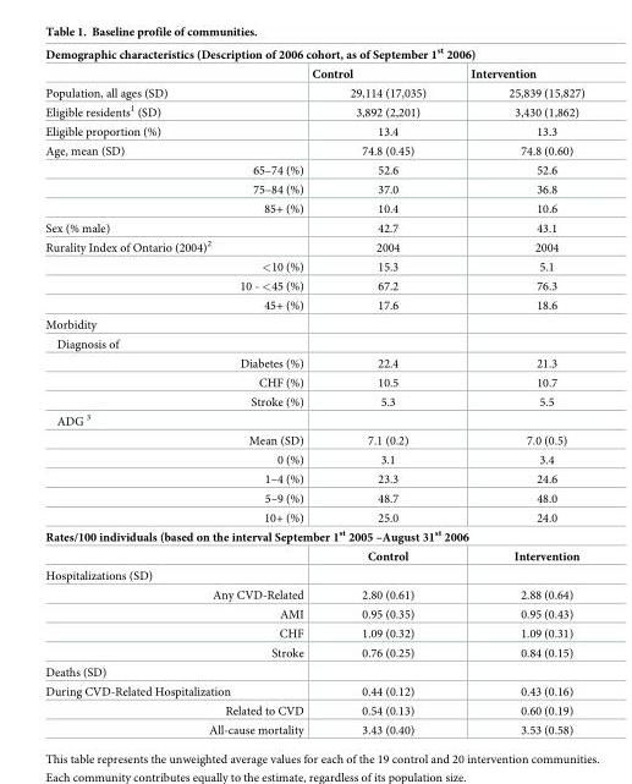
<table><thead><tr><td colspan="3">Demographic characteristics (Description of 2006 cohort, as of September 1<sup>st</sup> 2006)</td></tr><tr><td></td><td>Control</td><td>Intervention</td></tr></thead><tbody><tr><td>Population, all ages (SD)</td><td>29,114 (17,035)</td><td>25,839 (15,827)</td></tr><tr><td>Eligible residents<sup>1</sup> (SD)</td><td>3,892 (2,201)</td><td>3,430 (1,862)</td></tr><tr><td>Eligible proportion (%)</td><td>13.4</td><td>13.3</td></tr><tr><td>Age, mean (SD)</td><td>74.8 (0.45)</td><td>74.8 (0.60)</td></tr><tr><td>65–74 (%)</td><td>52.6</td><td>52.6</td></tr><tr><td>75–84 (%)</td><td>37.0</td><td>36.8</td></tr><tr><td>85+ (%)</td><td>10.4</td><td>10.6</td></tr><tr><td>Sex (% male)</td><td>42.7</td><td>43.1</td></tr><tr><td>Rurality Index of Ontario (2004)<sup>2</sup></td><td>2004</td><td>2004</td></tr><tr><td>&lt;10 (%)</td><td>15.3</td><td>5.1</td></tr><tr><td>10 - &lt;45 (%)</td><td>67.2</td><td>76.3</td></tr><tr><td>45+ (%)</td><td>17.6</td><td>18.6</td></tr><tr><td colspan="3">Morbidity</td></tr><tr><td colspan="3">Diagnosis of</td></tr><tr><td>Diabetes (%)</td><td>22.4</td><td>21.3</td></tr><tr><td>CHF (%)</td><td>10.5</td><td>10.7</td></tr><tr><td>Stroke (%)</td><td>5.3</td><td>5.5</td></tr><tr><td colspan="3">ADG <sup>3</sup></td></tr><tr><td>Mean (SD)</td><td>7.1 (0.2)</td><td>7.0 (0.5)</td></tr><tr><td>0 (%)</td><td>3.1</td><td>3.4</td></tr><tr><td>1–4 (%)</td><td>23.3</td><td>24.6</td></tr><tr><td>5–9 (%)</td><td>48.7</td><td>48.0</td></tr><tr><td>10+ (%)</td><td>25.0</td><td>24.0</td></tr><tr><td colspan="3">Rates/100 individuals (based on the interval September 1<sup>st</sup> 2005 –August 31<sup>st</sup> 2006</td></tr><tr><td></td><td>Control</td><td>Intervention</td></tr><tr><td colspan="3">Hospitalizations (SD)</td></tr><tr><td>Any CVD-Related</td><td>2.80 (0.61)</td><td>2.88 (0.64)</td></tr><tr><td>AMI</td><td>0.95 (0.35)</td><td>0.95 (0.43)</td></tr><tr><td>CHF</td><td>1.09 (0.32)</td><td>1.09 (0.31)</td></tr><tr><td>Stroke</td><td>0.76 (0.25)</td><td>0.84 (0.15)</td></tr><tr><td colspan="3">Deaths (SD)</td></tr><tr><td>During CVD-Related Hospitalization</td><td>0.44 (0.12)</td><td>0.43 (0.16)</td></tr><tr><td>Related to CVD</td><td>0.54 (0.13)</td><td>0.60 (0.19)</td></tr><tr><td>All-cause mortality</td><td>3.43 (0.40)</td><td>3.53 (0.58)</td></tr></tbody></table>